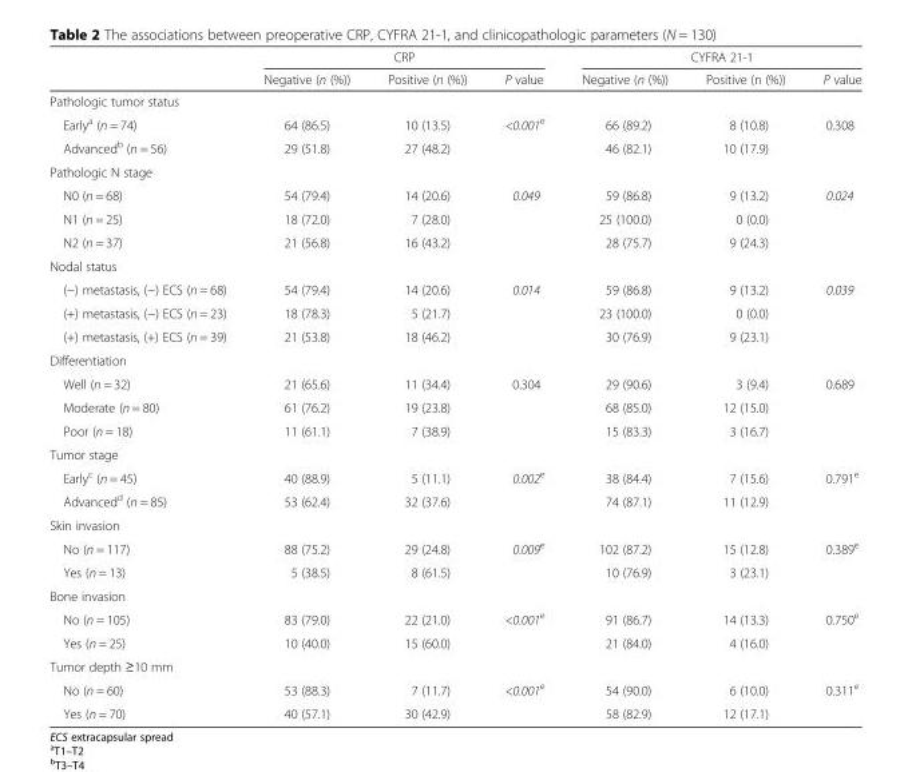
<table><thead><tr><td rowspan="2"></td><td colspan="3">CRP</td><td colspan="3">CYFRA 21-1</td></tr><tr><td>Negative (n (%))</td><td>Positive (n (%))</td><td>P value</td><td>Negative (n (%))</td><td>Positive (n (%))</td><td>P value</td></tr></thead><tbody><tr><td colspan="7">Pathologic tumor status</td></tr><tr><td>Early<sup>a</sup> (n = 74)</td><td>64 (86.5)</td><td>10 (13.5)</td><td>&lt;0.001<sup>e</sup></td><td>66 (89.2)</td><td>8 (10.8)</td><td>0.308</td></tr><tr><td>Advanced<sup>b</sup> (n = 56)</td><td>29 (51.8)</td><td>27 (48.2)</td><td></td><td>46 (82.1)</td><td>10 (17.9)</td><td></td></tr><tr><td colspan="7">Pathologic N stage</td></tr><tr><td>N0 (n = 68)</td><td>54 (79.4)</td><td>14 (20.6)</td><td>0.049</td><td>59 (86.8)</td><td>9 (13.2)</td><td>0.024</td></tr><tr><td>N1 (n = 25)</td><td>18 (72.0)</td><td>7 (28.0)</td><td></td><td>25 (100.0)</td><td>0 (0.0)</td><td></td></tr><tr><td>N2 (n = 37)</td><td>21 (56.8)</td><td>16 (43.2)</td><td></td><td>28 (75.7)</td><td>9 (24.3)</td><td></td></tr><tr><td colspan="7">Nodal status</td></tr><tr><td>(−) metastasis, (−) ECS (n = 68)</td><td>54 (79.4)</td><td>14 (20.6)</td><td>0.014</td><td>59 (86.8)</td><td>9 (13.2)</td><td>0.039</td></tr><tr><td>(+) metastasis, (−) ECS (n = 23)</td><td>18 (78.3)</td><td>5 (21.7)</td><td></td><td>23 (100.0)</td><td>0 (0.0)</td><td></td></tr><tr><td>(+) metastasis, (+) ECS (n = 39)</td><td>21 (53.8)</td><td>18 (46.2)</td><td></td><td>30 (76.9)</td><td>9 (23.1)</td><td></td></tr><tr><td colspan="7">Differentiation</td></tr><tr><td>Well (n = 32)</td><td>21 (65.6)</td><td>11 (34.4)</td><td>0.304</td><td>29 (90.6)</td><td>3 (9.4)</td><td>0.689</td></tr><tr><td>Moderate (n = 80)</td><td>61 (76.2)</td><td>19 (23.8)</td><td></td><td>68 (85.0)</td><td>12 (15.0)</td><td></td></tr><tr><td>Poor (n = 18)</td><td>11 (61.1)</td><td>7 (38.9)</td><td></td><td>15 (83.3)</td><td>3 (16.7)</td><td></td></tr><tr><td colspan="7">Tumor stage</td></tr><tr><td>Early<sup>c</sup> (n = 45)</td><td>40 (88.9)</td><td>5 (11.1)</td><td>0.002<sup>e</sup></td><td>38 (84.4)</td><td>7 (15.6)</td><td>0.791<sup>e</sup></td></tr><tr><td>Advanced<sup>d</sup> (n = 85)</td><td>53 (62.4)</td><td>32 (37.6)</td><td></td><td>74 (87.1)</td><td>11 (12.9)</td><td></td></tr><tr><td colspan="7">Skin invasion</td></tr><tr><td>No (n = 117)</td><td>88 (75.2)</td><td>29 (24.8)</td><td>0.009<sup>e</sup></td><td>102 (87.2)</td><td>15 (12.8)</td><td>0.389<sup>e</sup></td></tr><tr><td>Yes (n = 13)</td><td>5 (38.5)</td><td>8 (61.5)</td><td></td><td>10 (76.9)</td><td>3 (23.1)</td><td></td></tr><tr><td colspan="7">Bone invasion</td></tr><tr><td>No (n = 105)</td><td>83 (79.0)</td><td>22 (21.0)</td><td>&lt;0.001<sup>e</sup></td><td>91 (86.7)</td><td>14 (13.3)</td><td>0.750<sup>e</sup></td></tr><tr><td>Yes (n = 25)</td><td>10 (40.0)</td><td>15 (60.0)</td><td></td><td>21 (84.0)</td><td>4 (16.0)</td><td></td></tr><tr><td colspan="7">Tumor depth ≥10 mm</td></tr><tr><td>No (n = 60)</td><td>53 (88.3)</td><td>7 (11.7)</td><td>&lt;0.001<sup>e</sup></td><td>54 (90.0)</td><td>6 (10.0)</td><td>0.311<sup>e</sup></td></tr><tr><td>Yes (n = 70)</td><td>40 (57.1)</td><td>30 (42.9)</td><td></td><td>58 (82.9)</td><td>12 (17.1)</td><td></td></tr></tbody></table>